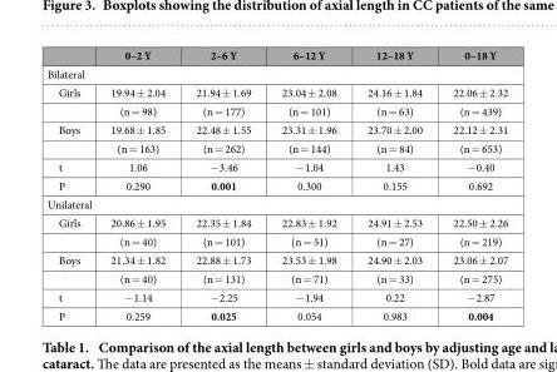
<table><thead><tr><td></td><td>0–2 Y</td><td>2–6 Y</td><td>6–12 Y</td><td>12–18 Y</td><td>0–18 Y</td></tr></thead><tbody><tr><td colspan="6">Bilateral</td></tr><tr><td rowspan="2">Girls</td><td>19.94 ± 2.04</td><td>21.94 ± 1.69</td><td>23.04 ± 2.08</td><td>24.16 ± 1.84</td><td>22.06 ± 2.32</td></tr><tr><td>(n = 98)</td><td>(n = 177)</td><td>(n = 101)</td><td>(n = 63)</td><td>(n = 439)</td></tr><tr><td rowspan="2">Boys</td><td>19.68 ± 1.85</td><td>22.48 ± 1.55</td><td>23.31 ± 1.96</td><td>23.70 ± 2.00</td><td>22.12 ± 2.31</td></tr><tr><td>(n = 163)</td><td>(n = 262)</td><td>(n = 144)</td><td>(n = 84)</td><td>(n = 653)</td></tr><tr><td>t</td><td>1.06</td><td>− 3.46</td><td>− 1.04</td><td>1.43</td><td>− 0.40</td></tr><tr><td>P</td><td>0.290</td><td>0.001</td><td>0.300</td><td>0.155</td><td>0.692</td></tr><tr><td colspan="6">Unilateral</td></tr><tr><td rowspan="2">Girls</td><td>20.86 ± 1.95</td><td>22.35 ± 1.84</td><td>22.83 ± 1.92</td><td>24.91 ± 2.53</td><td>22.50 ± 2.26</td></tr><tr><td>(n = 40)</td><td>(n = 101)</td><td>(n = 51)</td><td>(n = 27)</td><td>(n = 219)</td></tr><tr><td rowspan="2">Boys</td><td>21.34 ± 1.82</td><td>22.88 ± 1.73</td><td>23.53 ± 1.98</td><td>24.90 ± 2.03</td><td>23.06 ± 2.07</td></tr><tr><td>(n = 40)</td><td>(n = 131)</td><td>(n = 71)</td><td>(n = 33)</td><td>(n = 275)</td></tr><tr><td>t</td><td>− 1.14</td><td>− 2.25</td><td>− 1.94</td><td>0.22</td><td>− 2.87</td></tr><tr><td>P</td><td>0.259</td><td>0.025</td><td>0.054</td><td>0.983</td><td>0.004</td></tr></tbody></table>